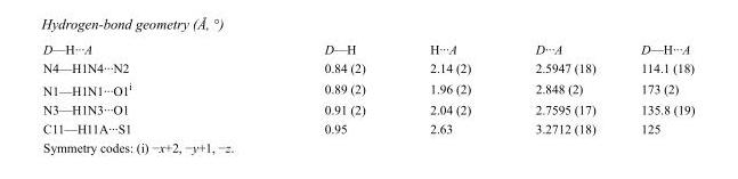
<table><tbody><tr><td>D—H···A</td><td>D—H</td><td>H···A</td><td>D···A</td><td>D—H···A</td></tr><tr><td>N4—H1N4···N2</td><td>0.84 (2)</td><td>2.14 (2)</td><td>2.5947 (18)</td><td>114.1 (18)</td></tr><tr><td>N1—H1N1···O1<sup>i</sup></td><td>0.89 (2)</td><td>1.96 (2)</td><td>2.848 (2)</td><td>173 (2)</td></tr><tr><td>N3—H1N3···O1</td><td>0.91 (2)</td><td>2.04 (2)</td><td>2.7595 (17)</td><td>135.8 (19)</td></tr><tr><td>C11—H11A···S1</td><td>0.95</td><td>2.63</td><td>3.2712 (18)</td><td>125</td></tr></tbody></table>